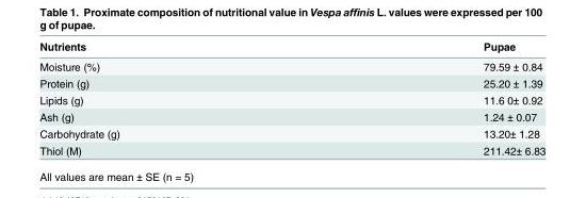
<table><thead><tr><td>Nutrients</td><td>Pupae</td></tr></thead><tbody><tr><td>Moisture (%)</td><td>79.59 ± 0.84</td></tr><tr><td>Protein (g)</td><td>25.20 ± 1.39</td></tr><tr><td>Lipids (g)</td><td>11.6 0± 0.92</td></tr><tr><td>Ash (g)</td><td>1.24 ± 0.07</td></tr><tr><td>Carbohydrate (g)</td><td>13.20± 1.28</td></tr><tr><td>Thiol (M)</td><td>211.42± 6.83</td></tr></tbody></table>